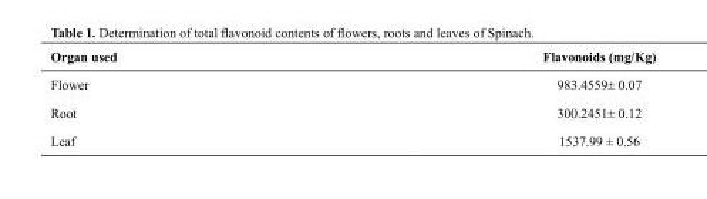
<table><thead><tr><td>Organ used</td><td>Flavonoids (mg/Kg)</td></tr></thead><tbody><tr><td>Flower</td><td>983.4559± 0.07</td></tr><tr><td>Root</td><td>300.2451± 0.12</td></tr><tr><td>Leaf</td><td>1537.99 ± 0.56</td></tr></tbody></table>